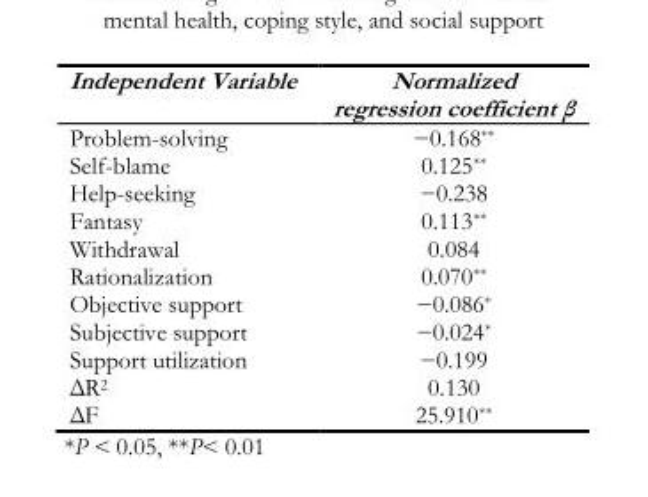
<table><thead><tr><td>Independent Variable</td><td>Normalized regression coefficient β</td></tr></thead><tbody><tr><td>Problem-solving</td><td>−0.168**</td></tr><tr><td>Self-blame</td><td>0.125**</td></tr><tr><td>Help-seeking</td><td>−0.238</td></tr><tr><td>Fantasy</td><td>0.113**</td></tr><tr><td>Withdrawal</td><td>0.084</td></tr><tr><td>Rationalization</td><td>0.070**</td></tr><tr><td>Objective support</td><td>−0.086*</td></tr><tr><td>Subjective support</td><td>−0.024*</td></tr><tr><td>Support utilization</td><td>−0.199</td></tr><tr><td>ΔR<sup>2</sup></td><td>0.130</td></tr><tr><td>ΔF</td><td>25.910**</td></tr></tbody></table>